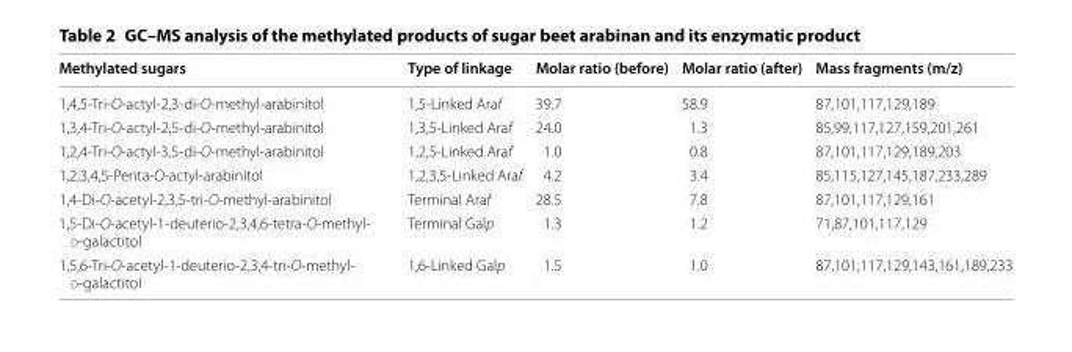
<table><thead><tr><td>Methylated sugars</td><td>Type of linkage</td><td>Molar ratio (before)</td><td>Molar ratio (after)</td><td>Mass fragments (m/z)</td></tr></thead><tbody><tr><td>1,4,5-Tri-O-actyl-2,3-di-O-methyl-arabinitol</td><td>1,5-Linked Araf</td><td>39.7</td><td>58.9</td><td>87,101,117,129,189</td></tr><tr><td>1,3,4-Tri-O-actyl-2,5-di-O-methyl-arabinitol</td><td>1,3,5-Linked Araf</td><td>24.0</td><td>1.3</td><td>85,99,117,127,159,201,261</td></tr><tr><td>1,2,4-Tri-O-actyl-3,5-di-O-methyl-arabinitol</td><td>1,2,5-Linked Araf</td><td>1.0</td><td>0.8</td><td>87,101,117,129,189,203</td></tr><tr><td>1,2,3,4,5-Penta-O-actyl-arabinitol</td><td>1,2,3,5-Linked Araf</td><td>4.2</td><td>3.4</td><td>85,115,127,145,187,233,289</td></tr><tr><td>1,4-Di-O-acetyl-2,3,5-tri-O-methyl-arabinitol</td><td>Terminal Araf</td><td>28.5</td><td>7.8</td><td>87,101,117,129,161</td></tr><tr><td>1,5-Di-O-acetyl-1-deuterio-2,3,4,6-tetra-O-methyl- d-galactitol</td><td>Terminal Galp</td><td>1.3</td><td>1.2</td><td>71,87,101,117,129</td></tr><tr><td>1,5,6-Tri-O-acetyl-1-deuterio-2,3,4-tri-O-methyl- d-galactitol</td><td>1,6-Linked Galp</td><td>1.5</td><td>1.0</td><td>87,101,117,129,143,161,189,233</td></tr></tbody></table>